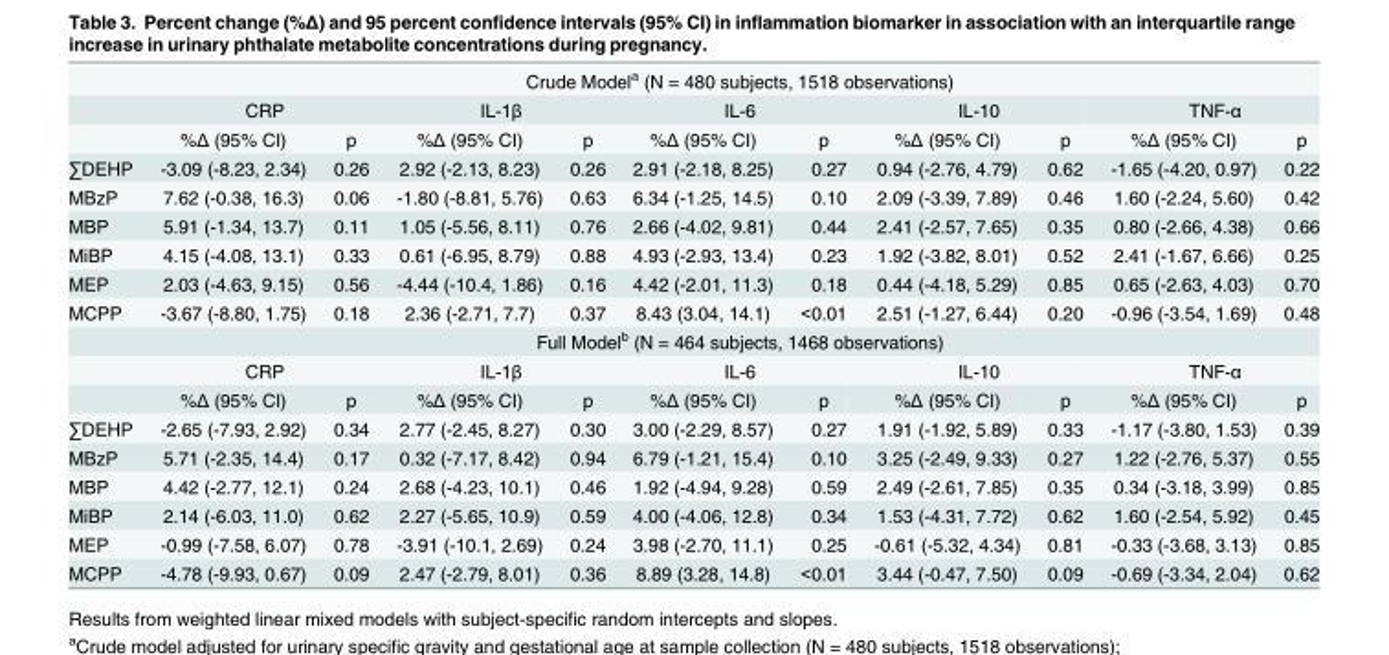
<table><thead><tr><td rowspan="3"></td><td colspan="10">Crude Model<sup>a</sup> (N = 480 subjects, 1518 observations)</td></tr><tr><td colspan="2">CRP</td><td colspan="2">IL-1β</td><td colspan="2">IL-6</td><td colspan="2">IL-10</td><td colspan="2">TNF-α</td></tr><tr><td>%Δ (95% CI)</td><td>p</td><td>%Δ (95% CI)</td><td>p</td><td>%Δ (95% CI)</td><td>p</td><td>%Δ (95% CI)</td><td>p</td><td>%Δ (95% CI)</td><td>p</td></tr></thead><tbody><tr><td>∑DEHP</td><td>-3.09 (-8.23, 2.34)</td><td>0.26</td><td>2.92 (-2.13, 8.23)</td><td>0.26</td><td>2.91 (-2.18, 8.25)</td><td>0.27</td><td>0.94 (-2.76, 4.79)</td><td>0.62</td><td>-1.65 (-4.20, 0.97)</td><td>0.22</td></tr><tr><td>MBzP</td><td>7.62 (-0.38, 16.3)</td><td>0.06</td><td>-1.80 (-8.81, 5.76)</td><td>0.63</td><td>6.34 (-1.25, 14.5)</td><td>0.10</td><td>2.09 (-3.39, 7.89)</td><td>0.46</td><td>1.60 (-2.24, 5.60)</td><td>0.42</td></tr><tr><td>MBP</td><td>5.91 (-1.34, 13.7)</td><td>0.11</td><td>1.05 (-5.56, 8.11)</td><td>0.76</td><td>2.66 (-4.02, 9.81)</td><td>0.44</td><td>2.41 (-2.57, 7.65)</td><td>0.35</td><td>0.80 (-2.66, 4.38)</td><td>0.66</td></tr><tr><td>MiBP</td><td>4.15 (-4.08, 13.1)</td><td>0.33</td><td>0.61 (-6.95, 8.79)</td><td>0.88</td><td>4.93 (-2.93, 13.4)</td><td>0.23</td><td>1.92 (-3.82, 8.01)</td><td>0.52</td><td>2.41 (-1.67, 6.66)</td><td>0.25</td></tr><tr><td>MEP</td><td>2.03 (-4.63, 9.15)</td><td>0.56</td><td>-4.44 (-10.4, 1.86)</td><td>0.16</td><td>4.42 (-2.01, 11.3)</td><td>0.18</td><td>0.44 (-4.18, 5.29)</td><td>0.85</td><td>0.65 (-2.63, 4.03)</td><td>0.70</td></tr><tr><td rowspan="4">MCPP</td><td>-3.67 (-8.80, 1.75)</td><td>0.18</td><td>2.36 (-2.71, 7.7)</td><td>0.37</td><td>8.43 (3.04, 14.1)</td><td>&lt;0.01</td><td>2.51 (-1.27, 6.44)</td><td>0.20</td><td>-0.96 (-3.54, 1.69)</td><td>0.48</td></tr><tr><td colspan="10">Full Model<sup>b</sup> (N = 464 subjects, 1468 observations)</td></tr><tr><td colspan="2">CRP</td><td colspan="2">IL-1β</td><td colspan="2">IL-6</td><td colspan="2">IL-10</td><td colspan="2">TNF-α</td></tr><tr><td>%Δ (95% CI)</td><td>p</td><td>%Δ (95% CI)</td><td>p</td><td>%Δ (95% CI)</td><td>p</td><td>%Δ (95% CI)</td><td>p</td><td>%Δ (95% CI)</td><td>p</td></tr><tr><td>∑DEHP</td><td>-2.65 (-7.93, 2.92)</td><td>0.34</td><td>2.77 (-2.45, 8.27)</td><td>0.30</td><td>3.00 (-2.29, 8.57)</td><td>0.27</td><td>1.91 (-1.92, 5.89)</td><td>0.33</td><td>-1.17 (-3.80, 1.53)</td><td>0.39</td></tr><tr><td>MBzP</td><td>5.71 (-2.35, 14.4)</td><td>0.17</td><td>0.32 (-7.17, 8.42)</td><td>0.94</td><td>6.79 (-1.21, 15.4)</td><td>0.10</td><td>3.25 (-2.49, 9.33)</td><td>0.27</td><td>1.22 (-2.76, 5.37)</td><td>0.55</td></tr><tr><td>MBP</td><td>4.42 (-2.77, 12.1)</td><td>0.24</td><td>2.68 (-4.23, 10.1)</td><td>0.46</td><td>1.92 (-4.94, 9.28)</td><td>0.59</td><td>2.49 (-2.61, 7.85)</td><td>0.35</td><td>0.34 (-3.18, 3.99)</td><td>0.85</td></tr><tr><td>MiBP</td><td>2.14 (-6.03, 11.0)</td><td>0.62</td><td>2.27 (-5.65, 10.9)</td><td>0.59</td><td>4.00 (-4.06, 12.8)</td><td>0.34</td><td>1.53 (-4.31, 7.72)</td><td>0.62</td><td>1.60 (-2.54, 5.92)</td><td>0.45</td></tr><tr><td>MEP</td><td>-0.99 (-7.58, 6.07)</td><td>0.78</td><td>-3.91 (-10.1, 2.69)</td><td>0.24</td><td>3.98 (-2.70, 11.1)</td><td>0.25</td><td>-0.61 (-5.32, 4.34)</td><td>0.81</td><td>-0.33 (-3.68, 3.13)</td><td>0.85</td></tr><tr><td>MCPP</td><td>-4.78 (-9.93, 0.67)</td><td>0.09</td><td>2.47 (-2.79, 8.01)</td><td>0.36</td><td>8.89 (3.28, 14.8)</td><td>&lt;0.01</td><td>3.44 (-0.47, 7.50)</td><td>0.09</td><td>-0.69 (-3.34, 2.04)</td><td>0.62</td></tr></tbody></table>